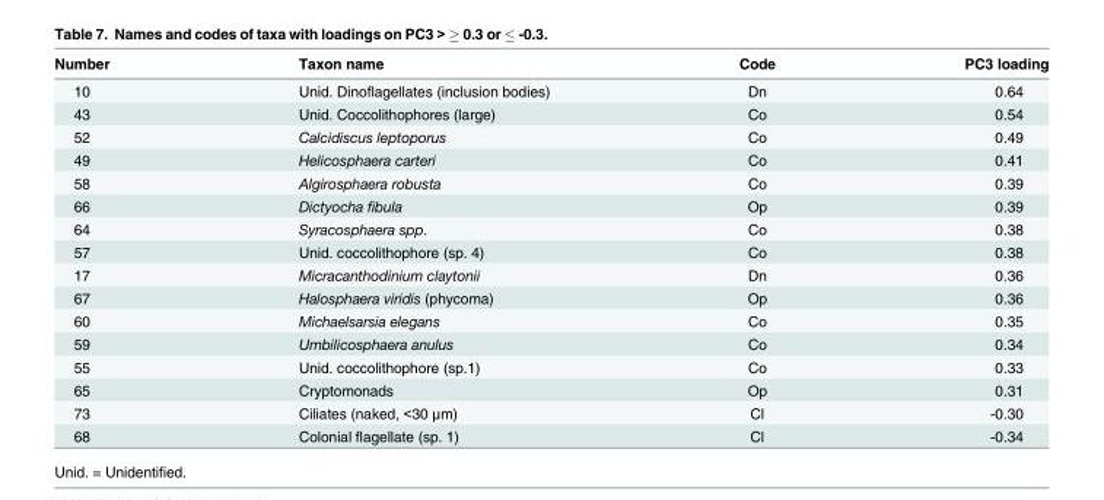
<table><thead><tr><td>Number</td><td>Taxon name</td><td>Code</td><td>PC3 loading</td></tr></thead><tbody><tr><td>10</td><td>Unid. Dinoflagellates (inclusion bodies)</td><td>Dn</td><td>0.64</td></tr><tr><td>43</td><td>Unid. Coccolithophores (large)</td><td>Co</td><td>0.54</td></tr><tr><td>52</td><td>Calcidiscus leptoporus</td><td>Co</td><td>0.49</td></tr><tr><td>49</td><td>Helicosphaera carteri</td><td>Co</td><td>0.41</td></tr><tr><td>58</td><td>Algirosphaera robusta</td><td>Co</td><td>0.39</td></tr><tr><td>66</td><td>Dictyocha fibula</td><td>Op</td><td>0.39</td></tr><tr><td>64</td><td>Syracosphaera spp.</td><td>Co</td><td>0.38</td></tr><tr><td>57</td><td>Unid. coccolithophore (sp. 4)</td><td>Co</td><td>0.38</td></tr><tr><td>17</td><td>Micracanthodinium claytonii</td><td>Dn</td><td>0.36</td></tr><tr><td>67</td><td>Halosphaera viridis (phycoma)</td><td>Op</td><td>0.36</td></tr><tr><td>60</td><td>Michaelsarsia elegans</td><td>Co</td><td>0.35</td></tr><tr><td>59</td><td>Umbilicosphaera anulus</td><td>Co</td><td>0.34</td></tr><tr><td>55</td><td>Unid. coccolithophore (sp.1)</td><td>Co</td><td>0.33</td></tr><tr><td>65</td><td>Cryptomonads</td><td>Op</td><td>0.31</td></tr><tr><td>73</td><td>Ciliates (naked, &lt;30 μm)</td><td>Cl</td><td>-0.30</td></tr><tr><td>68</td><td>Colonial flagellate (sp. 1)</td><td>Cl</td><td>-0.34</td></tr></tbody></table>